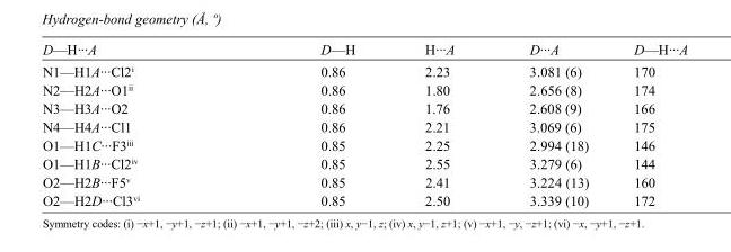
<table><tbody><tr><td>D—H···A</td><td>D—H</td><td>H···A</td><td>D···A</td><td>D—H···A</td></tr><tr><td>N1—H1A···Cl2<sup>i</sup></td><td>0.86</td><td>2.23</td><td>3.081 (6)</td><td>170</td></tr><tr><td>N2—H2A···O1<sup>ii</sup></td><td>0.86</td><td>1.80</td><td>2.656 (8)</td><td>174</td></tr><tr><td>N3—H3A···O2</td><td>0.86</td><td>1.76</td><td>2.608 (9)</td><td>166</td></tr><tr><td>N4—H4A···Cl1</td><td>0.86</td><td>2.21</td><td>3.069 (6)</td><td>175</td></tr><tr><td>O1—H1C···F3<sup>iii</sup></td><td>0.85</td><td>2.25</td><td>2.994 (18)</td><td>146</td></tr><tr><td>O1—H1B···Cl2<sup>iv</sup></td><td>0.85</td><td>2.55</td><td>3.279 (6)</td><td>144</td></tr><tr><td>O2—H2B···F5<sup>v</sup></td><td>0.85</td><td>2.41</td><td>3.224 (13)</td><td>160</td></tr><tr><td>O2—H2D···Cl3<sup>vi</sup></td><td>0.85</td><td>2.50</td><td>3.339 (10)</td><td>172</td></tr></tbody></table>